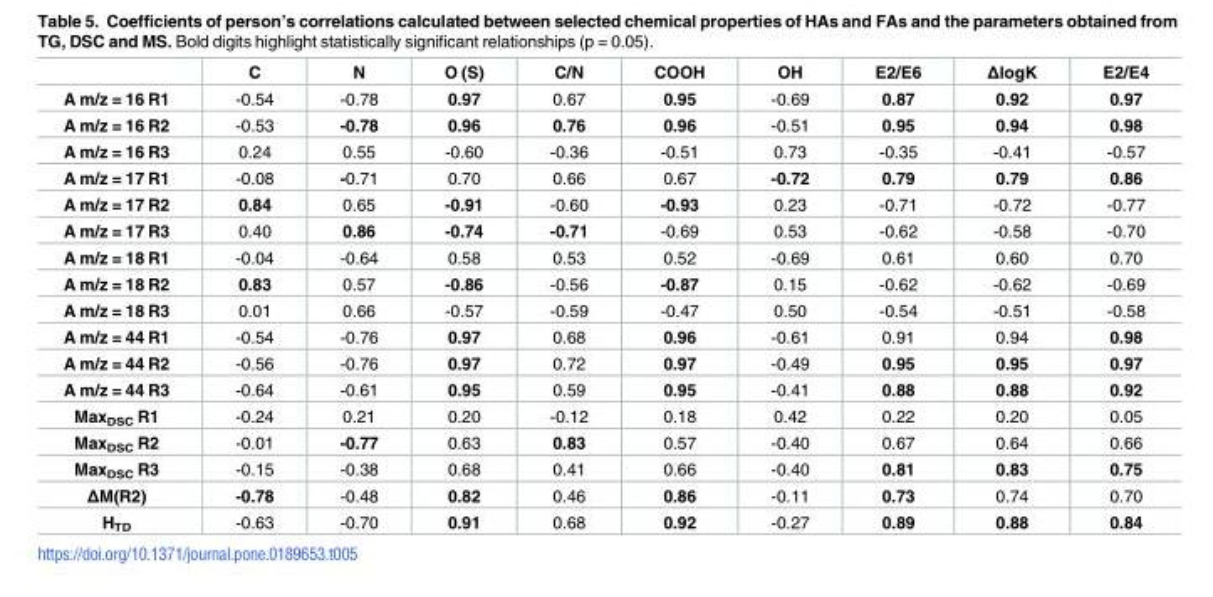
<table><thead><tr><td></td><td>C</td><td>N</td><td>O (S)</td><td>C/N</td><td>COOH</td><td>OH</td><td>E2/E6</td><td>ΔlogK</td><td>E2/E4</td></tr></thead><tbody><tr><td>A m/z = 16 R1</td><td>-0.54</td><td>-0.78</td><td>0.97</td><td>0.67</td><td>0.95</td><td>-0.69</td><td>0.87</td><td>0.92</td><td>0.97</td></tr><tr><td>A m/z = 16 R2</td><td>-0.53</td><td>-0.78</td><td>0.96</td><td>0.76</td><td>0.96</td><td>-0.51</td><td>0.95</td><td>0.94</td><td>0.98</td></tr><tr><td>A m/z = 16 R3</td><td>0.24</td><td>0.55</td><td>-0.60</td><td>-0.36</td><td>-0.51</td><td>0.73</td><td>-0.35</td><td>-0.41</td><td>-0.57</td></tr><tr><td>A m/z = 17 R1</td><td>-0.08</td><td>-0.71</td><td>0.70</td><td>0.66</td><td>0.67</td><td>-0.72</td><td>0.79</td><td>0.79</td><td>0.86</td></tr><tr><td>A m/z = 17 R2</td><td>0.84</td><td>0.65</td><td>-0.91</td><td>-0.60</td><td>-0.93</td><td>0.23</td><td>-0.71</td><td>-0.72</td><td>-0.77</td></tr><tr><td>A m/z = 17 R3</td><td>0.40</td><td>0.86</td><td>-0.74</td><td>-0.71</td><td>-0.69</td><td>0.53</td><td>-0.62</td><td>-0.58</td><td>-0.70</td></tr><tr><td>A m/z = 18 R1</td><td>-0.04</td><td>-0.64</td><td>0.58</td><td>0.53</td><td>0.52</td><td>-0.69</td><td>0.61</td><td>0.60</td><td>0.70</td></tr><tr><td>A m/z = 18 R2</td><td>0.83</td><td>0.57</td><td>-0.86</td><td>-0.56</td><td>-0.87</td><td>0.15</td><td>-0.62</td><td>-0.62</td><td>-0.69</td></tr><tr><td>A m/z = 18 R3</td><td>0.01</td><td>0.66</td><td>-0.57</td><td>-0.59</td><td>-0.47</td><td>0.50</td><td>-0.54</td><td>-0.51</td><td>-0.58</td></tr><tr><td>A m/z = 44 R1</td><td>-0.54</td><td>-0.76</td><td>0.97</td><td>0.68</td><td>0.96</td><td>-0.61</td><td>0.91</td><td>0.94</td><td>0.98</td></tr><tr><td>A m/z = 44 R2</td><td>-0.56</td><td>-0.76</td><td>0.97</td><td>0.72</td><td>0.97</td><td>-0.49</td><td>0.95</td><td>0.95</td><td>0.97</td></tr><tr><td>A m/z = 44 R3</td><td>-0.64</td><td>-0.61</td><td>0.95</td><td>0.59</td><td>0.95</td><td>-0.41</td><td>0.88</td><td>0.88</td><td>0.92</td></tr><tr><td>Max<sub>DSC</sub> R1</td><td>-0.24</td><td>0.21</td><td>0.20</td><td>-0.12</td><td>0.18</td><td>0.42</td><td>0.22</td><td>0.20</td><td>0.05</td></tr><tr><td>Max<sub>DSC</sub> R2</td><td>-0.01</td><td>-0.77</td><td>0.63</td><td>0.83</td><td>0.57</td><td>-0.40</td><td>0.67</td><td>0.64</td><td>0.66</td></tr><tr><td>Max<sub>DSC</sub> R3</td><td>-0.15</td><td>-0.38</td><td>0.68</td><td>0.41</td><td>0.66</td><td>-0.40</td><td>0.81</td><td>0.83</td><td>0.75</td></tr><tr><td>ΔM(R2)</td><td>-0.78</td><td>-0.48</td><td>0.82</td><td>0.46</td><td>0.86</td><td>-0.11</td><td>0.73</td><td>0.74</td><td>0.70</td></tr><tr><td>H<sub>TD</sub></td><td>-0.63</td><td>-0.70</td><td>0.91</td><td>0.68</td><td>0.92</td><td>-0.27</td><td>0.89</td><td>0.88</td><td>0.84</td></tr></tbody></table>